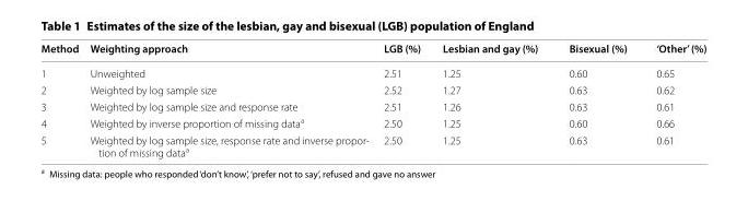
<table><thead><tr><td>Method</td><td>Weighting approach</td><td>LGB (%)</td><td>Lesbian and gay (%)</td><td>Bisexual (%)</td><td>‘Other’ (%)</td></tr></thead><tbody><tr><td>1</td><td>Unweighted</td><td>2.51</td><td>1.25</td><td>0.60</td><td>0.65</td></tr><tr><td>2</td><td>Weighted by log sample size</td><td>2.52</td><td>1.27</td><td>0.63</td><td>0.62</td></tr><tr><td>3</td><td>Weighted by log sample size and response rate</td><td>2.51</td><td>1.26</td><td>0.63</td><td>0.61</td></tr><tr><td>4</td><td>Weighted by inverse proportion of missing data<sup>a</sup></td><td>2.50</td><td>1.25</td><td>0.60</td><td>0.66</td></tr><tr><td>5</td><td>Weighted by log sample size, response rate and inverse propor- tion of missing dataa</td><td>2.50</td><td>1.25</td><td>0.63</td><td>0.61</td></tr></tbody></table>